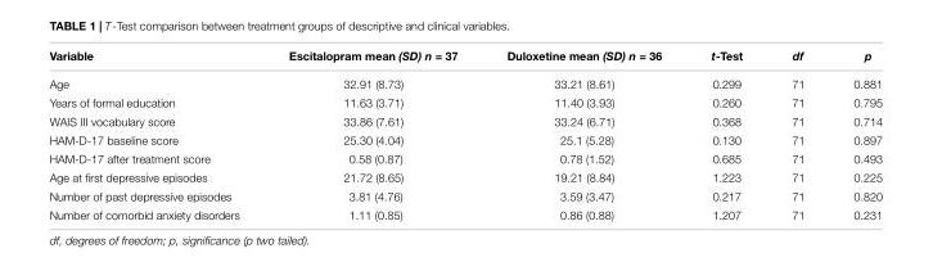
<table><thead><tr><td>Variable</td><td>Escitalopram mean (SD) n = 37</td><td>Duloxetine mean (SD) n = 36</td><td>t-Test</td><td>df</td><td>p</td></tr></thead><tbody><tr><td>Age</td><td>32.91 (8.73)</td><td>33.21 (8.61)</td><td>0.299</td><td>71</td><td>0.881</td></tr><tr><td>Years of formal education</td><td>11.63 (3.71)</td><td>11.40 (3.93)</td><td>0.260</td><td>71</td><td>0.795</td></tr><tr><td>WAIS III vocabulary score</td><td>33.86 (7.61)</td><td>33.24 (6.71)</td><td>0.368</td><td>71</td><td>0.714</td></tr><tr><td>HAM-D-17 baseline score</td><td>25.30 (4.04)</td><td>25.1 (5.28)</td><td>0.130</td><td>71</td><td>0.897</td></tr><tr><td>HAM-D-17 after treatment score</td><td>0.58 (0.87)</td><td>0.78 (1.52)</td><td>0.685</td><td>71</td><td>0.493</td></tr><tr><td>Age at first depressive episodes</td><td>21.72 (8.65)</td><td>19.21 (8.84)</td><td>1.223</td><td>71</td><td>0.225</td></tr><tr><td>Number of past depressive episodes</td><td>3.81 (4.76)</td><td>3.59 (3.47)</td><td>0.217</td><td>71</td><td>0.820</td></tr><tr><td>Number of comorbid anxiety disorders</td><td>1.11 (0.85)</td><td>0.86 (0.88)</td><td>1.207</td><td>71</td><td>0.231</td></tr></tbody></table>